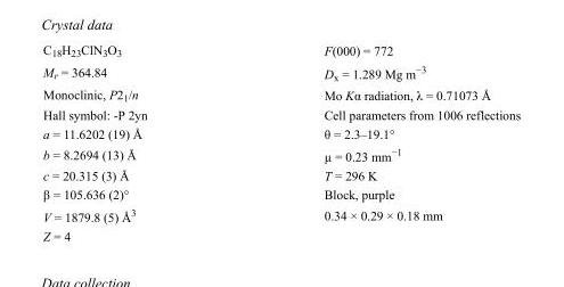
<table><tbody><tr><td>C<sub>18</sub>H<sub>23</sub>ClN<sub>3</sub>O<sub>3</sub></td><td>F(000) = 772</td></tr><tr><td>M<sub>r</sub> = 364.84</td><td>D<sub>x</sub> = 1.289 Mg m<sup>−3</sup></td></tr><tr><td>Monoclinic, P2<sub>1</sub>/n</td><td>Mo Kα radiation, λ = 0.71073 Å</td></tr><tr><td>Hall symbol: -P 2yn</td><td>Cell parameters from 1006 reflections</td></tr><tr><td>a = 11.6202 (19) Å</td><td>θ = 2.3–19.1°</td></tr><tr><td>b = 8.2694 (13) Å</td><td>µ = 0.23 mm<sup>−1</sup></td></tr><tr><td>c = 20.315 (3) Å</td><td>T = 296 K</td></tr><tr><td>β = 105.636 (2)°</td><td>Block, purple</td></tr><tr><td>V = 1879.8 (5) Å<sup>3</sup></td><td>0.34 × 0.29 × 0.18 mm</td></tr><tr><td>Z = 4</td><td></td></tr></tbody></table>